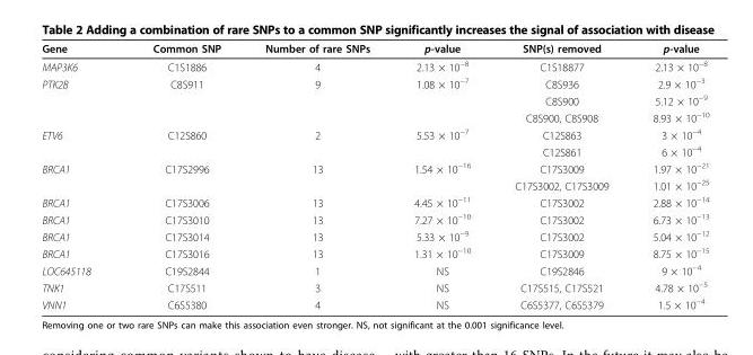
<table><thead><tr><td>Gene</td><td>Common SNP</td><td>Number of rare SNPs</td><td>p-value</td><td>SNP(s) removed</td><td>p-value</td></tr></thead><tbody><tr><td>MAP3K6</td><td>C1S1886</td><td>4</td><td>2.13 × 10<sup>−8</sup></td><td>C1S18877</td><td>2.13 × 10<sup>−8</sup></td></tr><tr><td rowspan="3">PTK2B</td><td>C8S911</td><td>9</td><td>1.08 × 10<sup>−7</sup></td><td>C8S936</td><td>2.9 × 10<sup>−3</sup></td></tr><tr><td></td><td></td><td></td><td>C8S900</td><td>5.12 × 10<sup>−9</sup></td></tr><tr><td></td><td></td><td></td><td>C8S900, C8S908</td><td>8.93 × 10<sup>−10</sup></td></tr><tr><td rowspan="2">ETV6</td><td>C12S860</td><td>2</td><td>5.53 × 10<sup>−7</sup></td><td>C12S863</td><td>3 × 10<sup>−4</sup></td></tr><tr><td></td><td></td><td></td><td>C12S861</td><td>6 × 10<sup>−4</sup></td></tr><tr><td rowspan="2">BRCA1</td><td>C17S2996</td><td>13</td><td>1.54 × 10<sup>−16</sup></td><td>C17S3009</td><td>1.97 × 10<sup>−21</sup></td></tr><tr><td></td><td></td><td></td><td>C17S3002, C17S3009</td><td>1.01 × 10<sup>−25</sup></td></tr><tr><td>BRCA1</td><td>C17S3006</td><td>13</td><td>4.45 × 10<sup>−11</sup></td><td>C17S3002</td><td>2.88 × 10<sup>−14</sup></td></tr><tr><td>BRCA1</td><td>C17S3010</td><td>13</td><td>7.27 × 10<sup>−10</sup></td><td>C17S3002</td><td>6.73 × 10<sup>−13</sup></td></tr><tr><td>BRCA1</td><td>C17S3014</td><td>13</td><td>5.33 × 10<sup>−9</sup></td><td>C17S3002</td><td>5.04 × 10<sup>−12</sup></td></tr><tr><td>BRCA1</td><td>C17S3016</td><td>13</td><td>1.31 × 10<sup>−10</sup></td><td>C17S3009</td><td>8.75 × 10<sup>−15</sup></td></tr><tr><td>LOC645118</td><td>C19S2844</td><td>1</td><td>NS</td><td>C19S2846</td><td>9 × 10<sup>−4</sup></td></tr><tr><td>TNK1</td><td>C17S511</td><td>3</td><td>NS</td><td>C17S515, C17S521</td><td>4.78 × 10<sup>−5</sup></td></tr><tr><td>VNN1</td><td>C6S5380</td><td>4</td><td>NS</td><td>C6S5377, C6S5379</td><td>1.5 × 10<sup>−4</sup></td></tr></tbody></table>